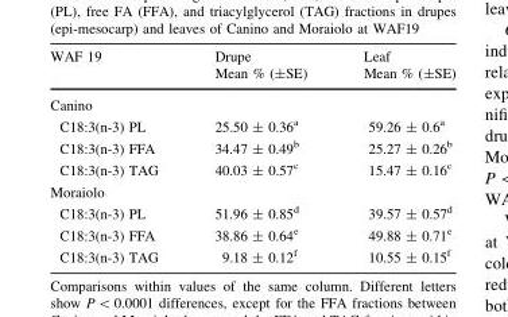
<table><thead><tr><td>WAF 19</td><td>Drupe Mean % (±SE)</td><td>Leaf Mean % (±SE)</td></tr></thead><tbody><tr><td colspan="3">Canino</td></tr><tr><td>C18:3(n-3) PL</td><td>25.50 ± 0.36<sup>a</sup></td><td>59.26 ± 0.6<sup>a</sup></td></tr><tr><td>C18:3(n-3) FFA</td><td>34.47 ± 0.49<sup>b</sup></td><td>25.27 ± 0.26<sup>b</sup></td></tr><tr><td>C18:3(n-3) TAG</td><td>40.03 ± 0.57<sup>c</sup></td><td>15.47 ± 0.16<sup>c</sup></td></tr><tr><td colspan="3">Moraiolo</td></tr><tr><td>C18:3(n-3) PL</td><td>51.96 ± 0.85<sup>d</sup></td><td>39.57 ± 0.57<sup>d</sup></td></tr><tr><td>C18:3(n-3) FFA</td><td>38.86 ± 0.64<sup>e</sup></td><td>49.88 ± 0.71<sup>e</sup></td></tr><tr><td>C18:3(n-3) TAG</td><td>9.18 ± 0.12<sup>f</sup></td><td>10.55 ± 0.15<sup>f</sup></td></tr></tbody></table>